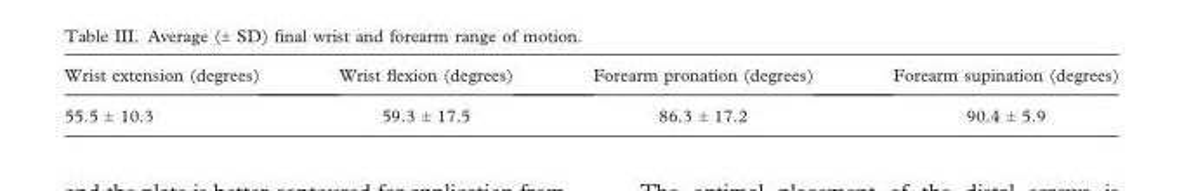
<table><thead><tr><td>Wrist extension (degrees)</td><td>Wrist flexion (degrees)</td><td>Forearm pronation (degrees)</td><td>Forearm supination (degrees)</td></tr></thead><tbody><tr><td>55.5 ± 10.3</td><td>59.3 ± 17.5</td><td>86.3 ± 17.2</td><td>90.4 ± 5.9</td></tr></tbody></table>